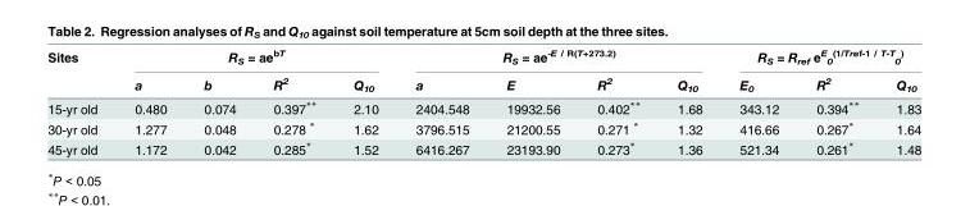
<table><thead><tr><td rowspan="2">Sites</td><td colspan="4">R<sub>S</sub> = ae<sup>bT</sup></td><td colspan="4">R<sub>S</sub> = ae<sup>-E / R(T+273.2)</sup></td><td colspan="3">R<sub>S</sub> = R<sub>ref</sub> e<sup>E</sup> <sub>0</sub> <sup>(1/Tref-1 / T-T</sup> <sub>0</sub> <sup>)</sup></td></tr><tr><td>a</td><td>b</td><td>R<sup>2</sup></td><td>Q<sub>10</sub></td><td>a</td><td>E</td><td>R<sup>2</sup></td><td>Q<sub>10</sub></td><td>E<sub>0</sub></td><td>R<sup>2</sup></td><td>Q<sub>10</sub></td></tr></thead><tbody><tr><td>15-yr old</td><td>0.480</td><td>0.074</td><td>0.397**</td><td>2.10</td><td>2404.548</td><td>19932.56</td><td>0.402**</td><td>1.68</td><td>343.12</td><td>0.394**</td><td>1.83</td></tr><tr><td>30-yr old</td><td>1.277</td><td>0.048</td><td>0.278 *</td><td>1.62</td><td>3796.515</td><td>21200.55</td><td>0.271 *</td><td>1.32</td><td>416.66</td><td>0.267*</td><td>1.64</td></tr><tr><td>45-yr old</td><td>1.172</td><td>0.042</td><td>0.285*</td><td>1.52</td><td>6416.267</td><td>23193.90</td><td>0.273*</td><td>1.36</td><td>521.34</td><td>0.261*</td><td>1.48</td></tr></tbody></table>